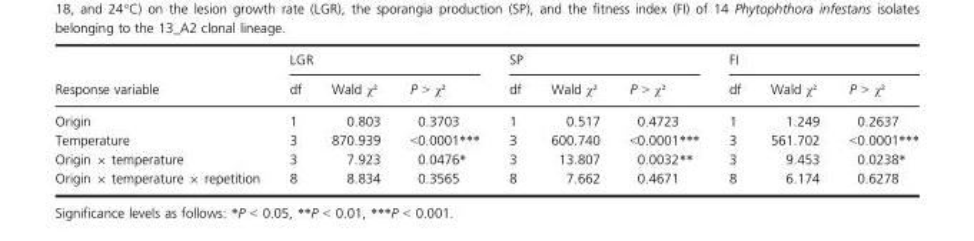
<table><thead><tr><td rowspan="2">Response variable</td><td colspan="3">LGR</td><td colspan="3">SP</td><td colspan="3">FI</td></tr><tr><td>df</td><td>Wald χ²</td><td>P &gt; χ²</td><td>df</td><td>Wald χ²</td><td>P &gt; χ²</td><td>df</td><td>Wald χ²</td><td>P &gt; χ²</td></tr></thead><tbody><tr><td>Origin</td><td>1</td><td>0.803</td><td>0.3703</td><td>1</td><td>0.517</td><td>0.4723</td><td>1</td><td>1.249</td><td>0.2637</td></tr><tr><td>Temperature</td><td>3</td><td>870.939</td><td>&lt;0.0001***</td><td>3</td><td>600.740</td><td>&lt;0.0001***</td><td>3</td><td>561.702</td><td>&lt;0.0001***</td></tr><tr><td>Origin × temperature</td><td>3</td><td>7.923</td><td>0.0476*</td><td>3</td><td>13.807</td><td>0.0032**</td><td>3</td><td>9.453</td><td>0.0238*</td></tr><tr><td>Origin × temperature × repetition</td><td>8</td><td>8.834</td><td>0.3565</td><td>8</td><td>7.662</td><td>0.4671</td><td>8</td><td>6.174</td><td>0.6278</td></tr></tbody></table>